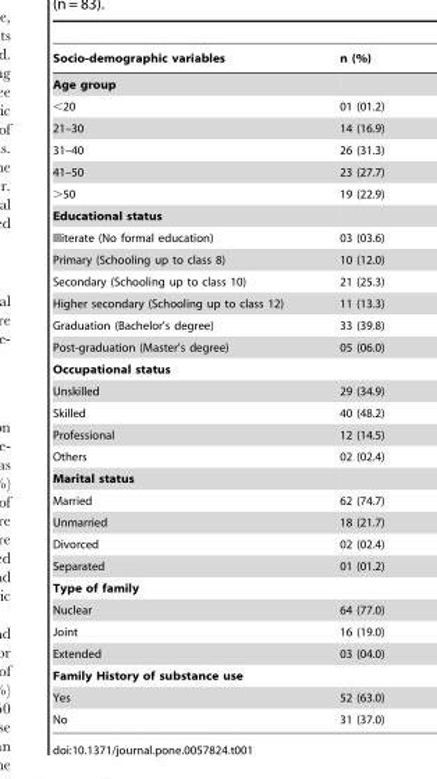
<table><thead><tr><td>Socio-demographic variables</td><td>n (%)</td></tr></thead><tbody><tr><td colspan="2">Age group</td></tr><tr><td>&lt;20</td><td>01 (01.2)</td></tr><tr><td>21–30</td><td>14 (16.9)</td></tr><tr><td>31–40</td><td>26 (31.3)</td></tr><tr><td>41–50</td><td>23 (27.7)</td></tr><tr><td>&gt;50</td><td>19 (22.9)</td></tr><tr><td colspan="2">Educational status</td></tr><tr><td>Illiterate (No formal education)</td><td>03 (03.6)</td></tr><tr><td>Primary (Schooling up to class 8)</td><td>10 (12.0)</td></tr><tr><td>Secondary (Schooling up to class 10)</td><td>21 (25.3)</td></tr><tr><td>Higher secondary (Schooling up to class 12)</td><td>11 (13.3)</td></tr><tr><td>Graduation (Bachelor’s degree)</td><td>33 (39.8)</td></tr><tr><td>Post-graduation (Master’s degree)</td><td>05 (06.0)</td></tr><tr><td colspan="2">Occupational status</td></tr><tr><td>Unskilled</td><td>29 (34.9)</td></tr><tr><td>Skilled</td><td>40 (48.2)</td></tr><tr><td>Professional</td><td>12 (14.5)</td></tr><tr><td>Others</td><td>02 (02.4)</td></tr><tr><td colspan="2">Marital status</td></tr><tr><td>Married</td><td>62 (74.7)</td></tr><tr><td>Unmarried</td><td>18 (21.7)</td></tr><tr><td>Divorced</td><td>02 (02.4)</td></tr><tr><td>Separated</td><td>01 (01.2)</td></tr><tr><td colspan="2">Type of family</td></tr><tr><td>Nuclear</td><td>64 (77.0)</td></tr><tr><td>Joint</td><td>16 (19.0)</td></tr><tr><td>Extended</td><td>03 (04.0)</td></tr><tr><td colspan="2">Family History of substance use</td></tr><tr><td>Yes</td><td>52 (63.0)</td></tr><tr><td>No</td><td>31 (37.0)</td></tr></tbody></table>